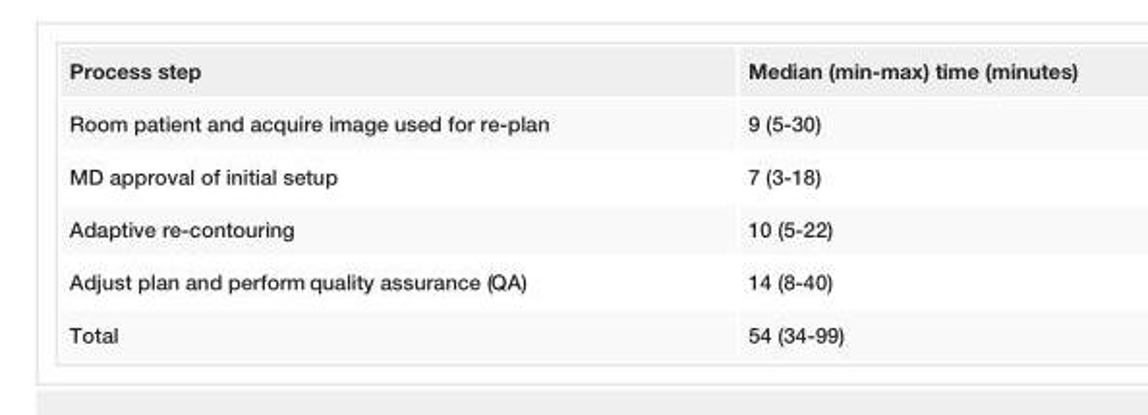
<table><tbody><tr><td>Process step</td><td>Median (min-max) time (minutes)</td></tr><tr><td>Room patient and acquire image used for re-plan</td><td>9 (5-30)</td></tr><tr><td>MD approval of initial setup</td><td>7 (3-18)</td></tr><tr><td>Adaptive re-contouring</td><td>10 (5-22)</td></tr><tr><td>Adjust plan and perform quality assurance (QA)</td><td>14 (8-40)</td></tr><tr><td>Total</td><td>54 (34-99)</td></tr></tbody></table>